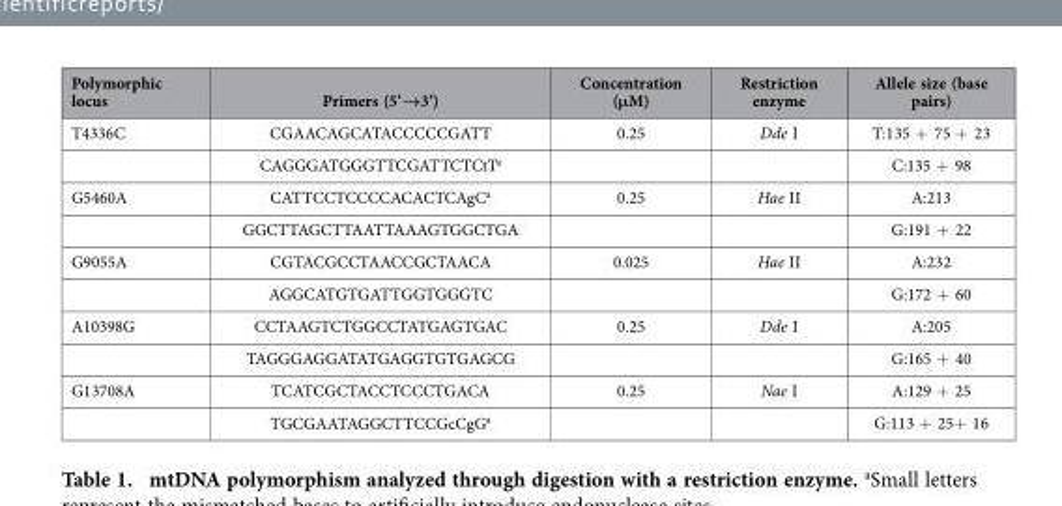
<table><thead><tr><td>Polymorphic locus</td><td>Primers (5’→3’)</td><td>Concentration (μM)</td><td>Restriction enzyme</td><td>Allele size (base pairs)</td></tr></thead><tbody><tr><td rowspan="2">T4336C</td><td>CGAACAGCATACCCCCGATT</td><td>0.25</td><td>Dde I</td><td>T:135 + 75 + 23</td></tr><tr><td>CAGGGATGGGTTCGATTCTCtT<sup>a</sup></td><td></td><td></td><td>C:135 + 98</td></tr><tr><td rowspan="2">G5460A</td><td>CATTCCTCCCCACACTCAgC<sup>a</sup></td><td>0.25</td><td>Hae II</td><td>A:213</td></tr><tr><td>GGCTTAGCTTAATTAAAGTGGCTGA</td><td></td><td></td><td>G:191 + 22</td></tr><tr><td rowspan="2">G9055A</td><td>CGTACGCCTAACCGCTAACA</td><td>0.025</td><td>Hae II</td><td>A:232</td></tr><tr><td>AGGCATGTGATTGGTGGGTC</td><td></td><td></td><td>G:172 + 60</td></tr><tr><td rowspan="2">A10398G</td><td>CCTAAGTCTGGCCTATGAGTGAC</td><td>0.25</td><td>Dde I</td><td>A:205</td></tr><tr><td>TAGGGAGGATATGAGGTGTGAGCG</td><td></td><td></td><td>G:165 + 40</td></tr><tr><td rowspan="2">G13708A</td><td>TCATCGCTACCTCCCTGACA</td><td>0.25</td><td>Nae I</td><td>A:129 + 25</td></tr><tr><td>TGCGAATAGGCTTCCGcCgG<sup>a</sup></td><td></td><td></td><td>G:113 + 25+ 16</td></tr></tbody></table>